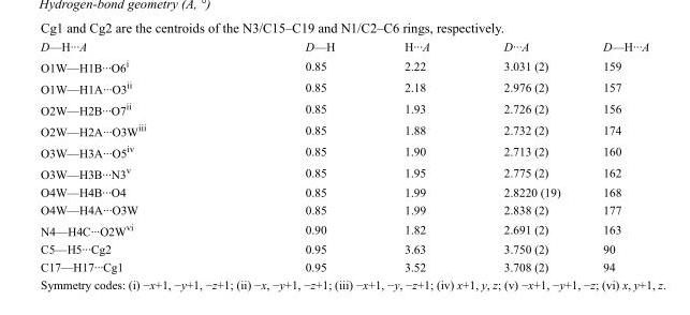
<table><tbody><tr><td>D—H···A</td><td>D—H</td><td>H···A</td><td>D···A</td><td>D—H···A</td></tr><tr><td>O1W—H1B···O6<sup>i</sup></td><td>0.85</td><td>2.22</td><td>3.031 (2)</td><td>159</td></tr><tr><td>O1W—H1A···O3<sup>ii</sup></td><td>0.85</td><td>2.18</td><td>2.976 (2)</td><td>157</td></tr><tr><td>O2W—H2B···O7<sup>ii</sup></td><td>0.85</td><td>1.93</td><td>2.726 (2)</td><td>156</td></tr><tr><td>O2W—H2A···O3W<sup>iii</sup></td><td>0.85</td><td>1.88</td><td>2.732 (2)</td><td>174</td></tr><tr><td>O3W—H3A···O5<sup>iv</sup></td><td>0.85</td><td>1.90</td><td>2.713 (2)</td><td>160</td></tr><tr><td>O3W—H3B···N3<sup>v</sup></td><td>0.85</td><td>1.95</td><td>2.775 (2)</td><td>162</td></tr><tr><td>O4W—H4B···O4</td><td>0.85</td><td>1.99</td><td>2.8220 (19)</td><td>168</td></tr><tr><td>O4W—H4A···O3W</td><td>0.85</td><td>1.99</td><td>2.838 (2)</td><td>177</td></tr><tr><td>N4—H4C···O2W<sup>vi</sup></td><td>0.90</td><td>1.82</td><td>2.691 (2)</td><td>163</td></tr><tr><td>C5—H5···Cg2</td><td>0.95</td><td>3.63</td><td>3.750 (2)</td><td>90</td></tr><tr><td>C17—H17···Cg1</td><td>0.95</td><td>3.52</td><td>3.708 (2)</td><td>94</td></tr></tbody></table>